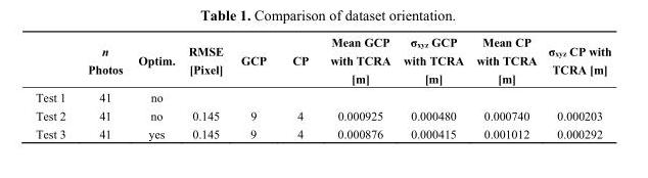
<table><thead><tr><td></td><td>n Photos</td><td>Optim.</td><td>RMSE [Pixel]</td><td>GCP</td><td>CP</td><td>Mean GCP with TCRA [m]</td><td>σ<sub>xyz</sub> GCP with TCRA [m]</td><td>Mean CP with TCRA [m]</td><td>σ<sub>xyz</sub> CP with TCRA [m]</td></tr></thead><tbody><tr><td>Test 1</td><td>41</td><td>no</td><td></td><td></td><td></td><td></td><td></td><td></td><td></td></tr><tr><td>Test 2</td><td>41</td><td>no</td><td>0.145</td><td>9</td><td>4</td><td>0.000925</td><td>0.000480</td><td>0.000740</td><td>0.000203</td></tr><tr><td>Test 3</td><td>41</td><td>yes</td><td>0.145</td><td>9</td><td>4</td><td>0.000876</td><td>0.000415</td><td>0.001012</td><td>0.000292</td></tr></tbody></table>